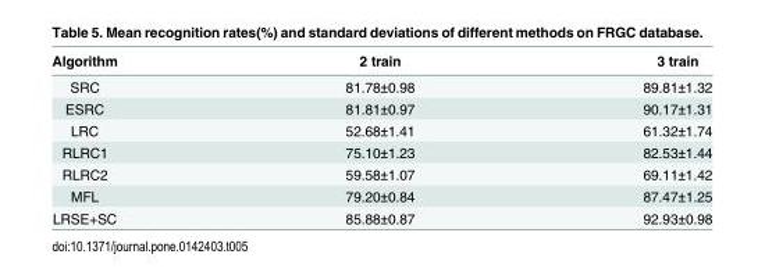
<table><thead><tr><td>Algorithm</td><td>2 train</td><td>3 train</td></tr></thead><tbody><tr><td>SRC</td><td>81.78±0.98</td><td>89.81±1.32</td></tr><tr><td>ESRC</td><td>81.81±0.97</td><td>90.17±1.31</td></tr><tr><td>LRC</td><td>52.68±1.41</td><td>61.32±1.74</td></tr><tr><td>RLRC1</td><td>75.10±1.23</td><td>82.53±1.44</td></tr><tr><td>RLRC2</td><td>59.58±1.07</td><td>69.11±1.42</td></tr><tr><td>MFL</td><td>79.20±0.84</td><td>87.47±1.25</td></tr><tr><td>LRSE+SC</td><td>85.88±0.87</td><td>92.93±0.98</td></tr></tbody></table>